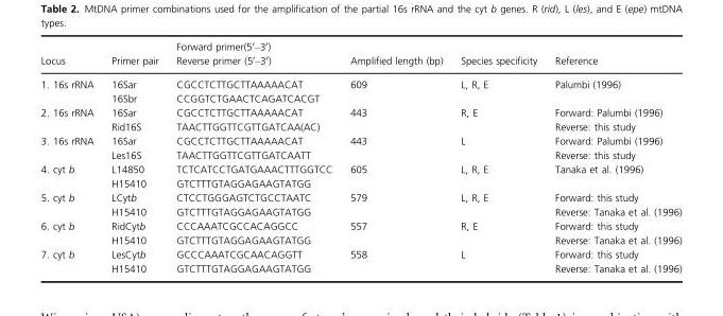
<table><thead><tr><td>Locus</td><td>Primer pair</td><td>Forward primer(5′–3′) Reverse primer (5′–3′)</td><td>Amplified length (bp)</td><td>Species specificity</td><td>Reference</td></tr></thead><tbody><tr><td rowspan="2">1. 16s rRNA</td><td>16Sar</td><td>CGCCTCTTGCTTAAAAACAT</td><td rowspan="2">609</td><td rowspan="2">L, R, E</td><td rowspan="2">Palumbi (1996)</td></tr><tr><td>16Sbr</td><td>CCGGTCTGAACTCAGATCACGT</td></tr><tr><td rowspan="2">2. 16s rRNA</td><td>16Sar</td><td>CGCCTCTTGCTTAAAAACAT</td><td rowspan="2">443</td><td rowspan="2">R, E</td><td>Forward: Palumbi (1996)</td></tr><tr><td>Rid16S</td><td>TAACTTGGTTCGTTGATCAA(AC)</td><td>Reverse: this study</td></tr><tr><td rowspan="2">3. 16s rRNA</td><td>16Sar</td><td>CGCCTCTTGCTTAAAAACAT</td><td rowspan="2">443</td><td rowspan="2">L</td><td>Forward: Palumbi (1996)</td></tr><tr><td>Les16S</td><td>TAACTTGGTTCGTTGATCAATT</td><td>Reverse: this study</td></tr><tr><td rowspan="2">4. cyt b</td><td>L14850</td><td>TCTCATCCTGATGAAACTTTGGTCC</td><td rowspan="2">605</td><td rowspan="2">L, R, E</td><td rowspan="2">Tanaka et al. (1996)</td></tr><tr><td>H15410</td><td>GTCTTTGTAGGAGAAGTATGG</td></tr><tr><td rowspan="2">5. cyt b</td><td>LCytb</td><td>CTCCTGGGAGTCTGCCTAATC</td><td rowspan="2">579</td><td rowspan="2">L, R, E</td><td>Forward: this study</td></tr><tr><td>H15410</td><td>GTCTTTGTAGGAGAAGTATGG</td><td>Reverse: Tanaka et al. (1996)</td></tr><tr><td rowspan="2">6. cyt b</td><td>RidCytb</td><td>CCCAAATCGCCACAGGCC</td><td rowspan="2">557</td><td rowspan="2">R, E</td><td>Forward: this study</td></tr><tr><td>H15410</td><td>GTCTTTGTAGGAGAAGTATGG</td><td>Reverse: Tanaka et al. (1996)</td></tr><tr><td rowspan="2">7. cyt b</td><td>LesCytb</td><td>GCCCAAATCGCAACAGGTT</td><td rowspan="2">558</td><td rowspan="2">L</td><td>Forward: this study</td></tr><tr><td>H15410</td><td>GTCTTTGTAGGAGAAGTATGG</td><td>Reverse: Tanaka et al. (1996)</td></tr></tbody></table>